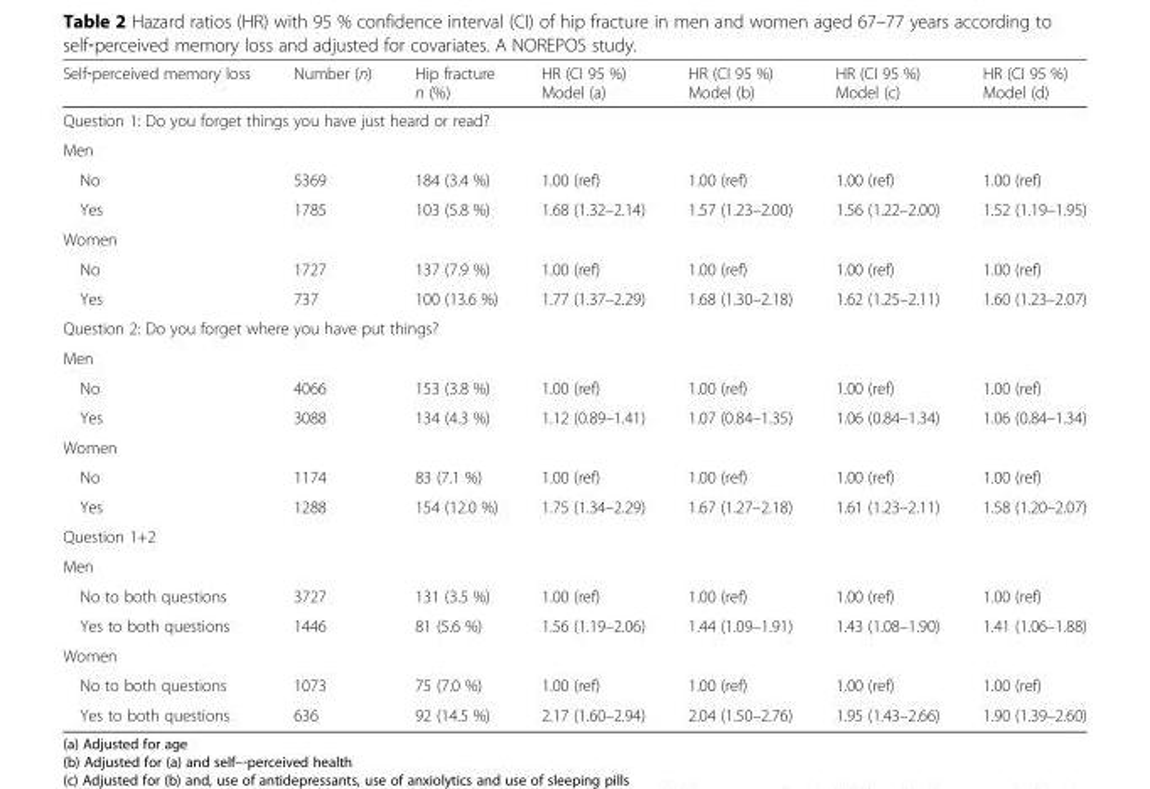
<table><thead><tr><td>Self‐perceived memory loss</td><td>Number (n)</td><td>Hip fracture n (%)</td><td>HR (CI 95 %) Model (a)</td><td>HR (CI 95 %) Model (b)</td><td>HR (CI 95 %) Model (c)</td><td>HR (CI 95 %) Model (d)</td></tr></thead><tbody><tr><td colspan="7">Question 1: Do you forget things you have just heard or read?</td></tr><tr><td colspan="7">Men</td></tr><tr><td>No</td><td>5369</td><td>184 (3.4 %)</td><td>1.00 (ref)</td><td>1.00 (ref)</td><td>1.00 (ref)</td><td>1.00 (ref)</td></tr><tr><td>Yes</td><td>1785</td><td>103 (5.8 %)</td><td>1.68 (1.32–2.14)</td><td>1.57 (1.23–2.00)</td><td>1.56 (1.22–2.00)</td><td>1.52 (1.19–1.95)</td></tr><tr><td colspan="7">Women</td></tr><tr><td>No</td><td>1727</td><td>137 (7.9 %)</td><td>1.00 (ref)</td><td>1.00 (ref)</td><td>1.00 (ref)</td><td>1.00 (ref)</td></tr><tr><td>Yes</td><td>737</td><td>100 (13.6 %)</td><td>1.77 (1.37–2.29)</td><td>1.68 (1.30–2.18)</td><td>1.62 (1.25–2.11)</td><td>1.60 (1.23–2.07)</td></tr><tr><td colspan="7">Question 2: Do you forget where you have put things?</td></tr><tr><td colspan="7">Men</td></tr><tr><td>No</td><td>4066</td><td>153 (3.8 %)</td><td>1.00 (ref)</td><td>1.00 (ref)</td><td>1.00 (ref)</td><td>1.00 (ref)</td></tr><tr><td>Yes</td><td>3088</td><td>134 (4.3 %)</td><td>1.12 (0.89–1.41)</td><td>1.07 (0.84–1.35)</td><td>1.06 (0.84–1.34)</td><td>1.06 (0.84–1.34)</td></tr><tr><td colspan="7">Women</td></tr><tr><td>No</td><td>1174</td><td>83 (7.1 %)</td><td>1.00 (ref)</td><td>1.00 (ref)</td><td>1.00 (ref)</td><td>1.00 (ref)</td></tr><tr><td>Yes</td><td>1288</td><td>154 (12.0 %)</td><td>1.75 (1.34–2.29)</td><td>1.67 (1.27–2.18)</td><td>1.61 (1.23–2.11)</td><td>1.58 (1.20–2.07)</td></tr><tr><td colspan="7">Question 1+2</td></tr><tr><td colspan="7">Men</td></tr><tr><td>No to both questions</td><td>3727</td><td>131 (3.5 %)</td><td>1.00 (ref)</td><td>1.00 (ref)</td><td>1.00 (ref)</td><td>1.00 (ref)</td></tr><tr><td>Yes to both questions</td><td>1446</td><td>81 (5.6 %)</td><td>1.56 (1.19–2.06)</td><td>1.44 (1.09–1.91)</td><td>1.43 (1.08–1.90)</td><td>1.41 (1.06–1.88)</td></tr><tr><td colspan="7">Women</td></tr><tr><td>No to both questions</td><td>1073</td><td>75 (7.0 %)</td><td>1.00 (ref)</td><td>1.00 (ref)</td><td>1.00 (ref)</td><td>1.00 (ref)</td></tr><tr><td>Yes to both questions</td><td>636</td><td>92 (14.5 %)</td><td>2.17 (1.60–2.94)</td><td>2.04 (1.50–2.76)</td><td>1.95 (1.43–2.66)</td><td>1.90 (1.39–2.60)</td></tr></tbody></table>